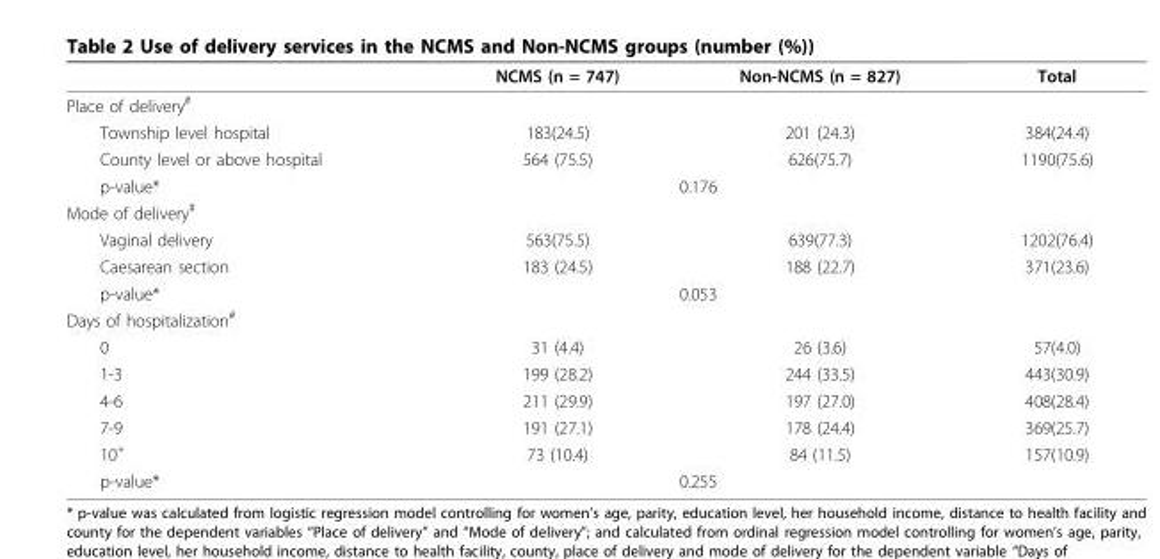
<table><thead><tr><td></td><td>NCMS (n = 747)</td><td>Non-NCMS (n = 827)</td><td>Total</td></tr></thead><tbody><tr><td colspan="4">Place of delivery<sup>#</sup></td></tr><tr><td>Township level hospital</td><td>183(24.5)</td><td>201 (24.3)</td><td>384(24.4)</td></tr><tr><td>County level or above hospital</td><td>564 (75.5)</td><td>626(75.7)</td><td>1190(75.6)</td></tr><tr><td>p-value*</td><td colspan="2">0.176</td><td></td></tr><tr><td colspan="4">Mode of delivery<sup>#</sup></td></tr><tr><td>Vaginal delivery</td><td>563(75.5)</td><td>639(77.3)</td><td>1202(76.4)</td></tr><tr><td>Caesarean section</td><td>183 (24.5)</td><td>188 (22.7)</td><td>371(23.6)</td></tr><tr><td>p-value*</td><td colspan="2">0.053</td><td></td></tr><tr><td colspan="4">Days of hospitalization<sup>#</sup></td></tr><tr><td>0</td><td>31 (4.4)</td><td>26 (3.6)</td><td>57(4.0)</td></tr><tr><td>1-3</td><td>199 (28.2)</td><td>244 (33.5)</td><td>443(30.9)</td></tr><tr><td>4-6</td><td>211 (29.9)</td><td>197 (27.0)</td><td>408(28.4)</td></tr><tr><td>7-9</td><td>191 (27.1)</td><td>178 (24.4)</td><td>369(25.7)</td></tr><tr><td>10<sup>+</sup></td><td>73 (10.4)</td><td>84 (11.5)</td><td>157(10.9)</td></tr><tr><td>p-value*</td><td colspan="2">0.255</td><td></td></tr></tbody></table>